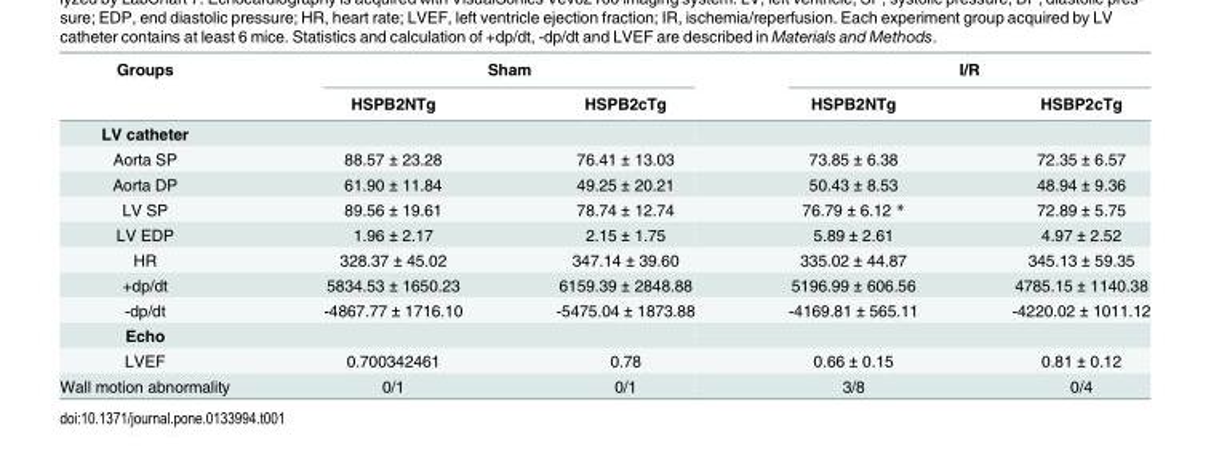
<table><thead><tr><td rowspan="2">Groups</td><td colspan="2">Sham</td><td colspan="2">I/R</td></tr><tr><td>HSPB2NTg</td><td>HSPB2cTg</td><td>HSPB2NTg</td><td>HSBP2cTg</td></tr></thead><tbody><tr><td colspan="5">LV catheter</td></tr><tr><td>Aorta SP</td><td>88.57 ± 23.28</td><td>76.41 ± 13.03</td><td>73.85 ± 6.38</td><td>72.35 ± 6.57</td></tr><tr><td>Aorta DP</td><td>61.90 ± 11.84</td><td>49.25 ± 20.21</td><td>50.43 ± 8.53</td><td>48.94 ± 9.36</td></tr><tr><td>LV SP</td><td>89.56 ± 19.61</td><td>78.74 ± 12.74</td><td>76.79 ± 6.12 *</td><td>72.89 ± 5.75</td></tr><tr><td>LV EDP</td><td>1.96 ± 2.17</td><td>2.15 ± 1.75</td><td>5.89 ± 2.61</td><td>4.97 ± 2.52</td></tr><tr><td>HR</td><td>328.37 ± 45.02</td><td>347.14 ± 39.60</td><td>335.02 ± 44.87</td><td>345.13 ± 59.35</td></tr><tr><td>+dp/dt</td><td>5834.53 ± 1650.23</td><td>6159.39 ± 2848.88</td><td>5196.99 ± 606.56</td><td>4785.15 ± 1140.38</td></tr><tr><td>-dp/dt</td><td>-4867.77 ± 1716.10</td><td>-5475.04 ± 1873.88</td><td>-4169.81 ± 565.11</td><td>-4220.02 ± 1011.12</td></tr><tr><td colspan="5">Echo</td></tr><tr><td>LVEF</td><td>0.700342461</td><td>0.78</td><td>0.66 ± 0.15</td><td>0.81 ± 0.12</td></tr><tr><td>Wall motion abnormality</td><td>0/1</td><td>0/1</td><td>3/8</td><td>0/4</td></tr></tbody></table>